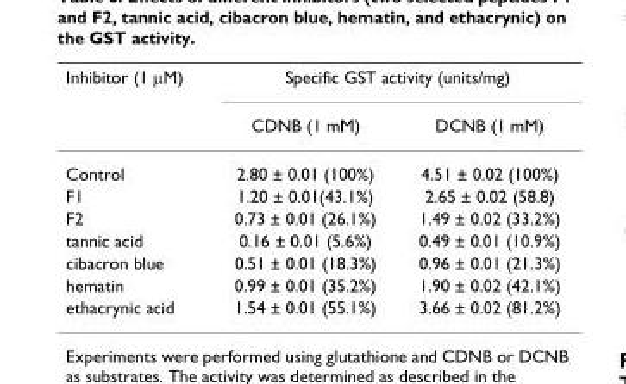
<table><thead><tr><td rowspan="2">Inhibitor (1 μM)</td><td colspan="2">Specific GST activity (units/mg)</td></tr><tr><td>CDNB (1 mM)</td><td>DCNB (1 mM)</td></tr></thead><tbody><tr><td>Control</td><td>2.80 ± 0.01 (100%)</td><td>4.51 ± 0.02 (100%)</td></tr><tr><td>F1</td><td>1.20 ± 0.01(43.1%)</td><td>2.65 ± 0.02 (58.8)</td></tr><tr><td>F2</td><td>0.73 ± 0.01 (26.1%)</td><td>1.49 ± 0.02 (33.2%)</td></tr><tr><td>tannic acid</td><td>0.16 ± 0.01 (5.6%)</td><td>0.49 ± 0.01 (10.9%)</td></tr><tr><td>cibacron blue</td><td>0.51 ± 0.01 (18.3%)</td><td>0.96 ± 0.01 (21.3%)</td></tr><tr><td>hematin</td><td>0.99 ± 0.01 (35.2%)</td><td>1.90 ± 0.02 (42.1%)</td></tr><tr><td>ethacrynic acid</td><td>1.54 ± 0.01 (55.1%)</td><td>3.66 ± 0.02 (81.2%)</td></tr></tbody></table>